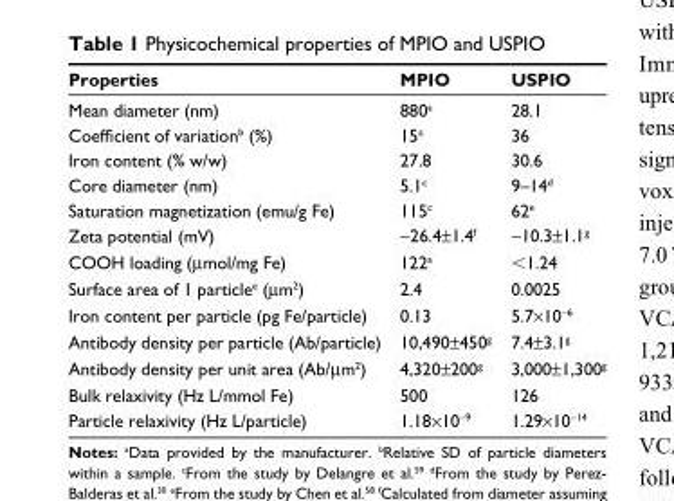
<table><thead><tr><td>Properties</td><td>MPIO</td><td>USPIO</td></tr></thead><tbody><tr><td>Mean diameter (nm)</td><td>880<sup>a</sup></td><td>28.1</td></tr><tr><td>Coefficient of variation<sup>b</sup> (%)</td><td>15<sup>a</sup></td><td>36</td></tr><tr><td>Iron content (% w/w)</td><td>27.8</td><td>30.6</td></tr><tr><td>core diameter (nm)</td><td>5.1<sup>c</sup></td><td>9–14<sup>d</sup></td></tr><tr><td>saturation magnetization (emu/g Fe)</td><td>115<sup>c</sup></td><td>62<sup>e</sup></td></tr><tr><td>Zeta potential (mV)</td><td>−26.4±1.4<sup>f</sup></td><td>−10.3±1.1<sup>g</sup></td></tr><tr><td>cOOh loading (μmol/mg Fe)</td><td>122<sup>a</sup></td><td>&lt;1.24</td></tr><tr><td>surface area of 1 particle<sup>e</sup> (μm<sup>2</sup>)</td><td>2.4</td><td>0.0025</td></tr><tr><td>Iron content per particle (pg Fe/particle)</td><td>0.13</td><td>5.7×10<sup>−6</sup></td></tr><tr><td>antibody density per particle (ab/particle)</td><td>10,490±450<sup>g</sup></td><td>7.4±3.1<sup>g</sup></td></tr><tr><td>antibody density per unit area (ab/μm<sup>2</sup>)</td><td>4,320±200<sup>g</sup></td><td>3,000±1,300<sup>g</sup></td></tr><tr><td>Bulk relaxivity (hz l/mmol Fe)</td><td>500</td><td>126</td></tr><tr><td>Particle relaxivity (hz l/particle)</td><td>1.18×10<sup>−9</sup></td><td>1.29×10<sup>−14</sup></td></tr></tbody></table>